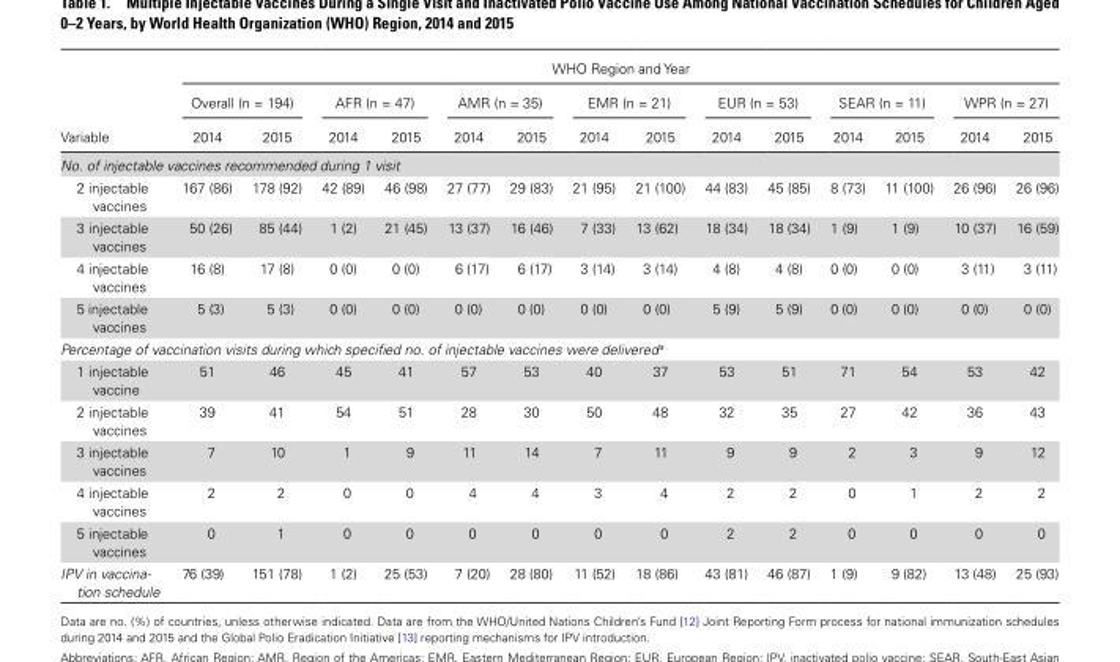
<table><thead><tr><td rowspan="3">Variable</td><td colspan="14">WHO Region and Year</td></tr><tr><td colspan="2">Overall (n = 194)</td><td colspan="2">AFR (n = 47)</td><td colspan="2">AMR (n = 35)</td><td colspan="2">EMR (n = 21)</td><td colspan="2">EUR (n = 53)</td><td colspan="2">SEAR (n = 11)</td><td colspan="2">WPR (n = 27)</td></tr><tr><td>2014</td><td>2015</td><td>2014</td><td>2015</td><td>2014</td><td>2015</td><td>2014</td><td>2015</td><td>2014</td><td>2015</td><td>2014</td><td>2015</td><td>2014</td><td>2015</td></tr></thead><tbody><tr><td colspan="15">No. of injectable vaccines recommended during 1 visit</td></tr><tr><td>2 injectable vaccines</td><td>167 (86)</td><td>178 (92)</td><td>42 (89)</td><td>46 (98)</td><td>27 (77)</td><td>29 (83)</td><td>21 (95)</td><td>21 (100)</td><td>44 (83)</td><td>45 (85)</td><td>8 (73)</td><td>11 (100)</td><td>26 (96)</td><td>26 (96)</td></tr><tr><td>3 injectable vaccines</td><td>50 (26)</td><td>85 (44)</td><td>1 (2)</td><td>21 (45)</td><td>13 (37)</td><td>16 (46)</td><td>7 (33)</td><td>13 (62)</td><td>18 (34)</td><td>18 (34)</td><td>1 (9)</td><td>1 (9)</td><td>10 (37)</td><td>16 (59)</td></tr><tr><td>4 injectable vaccines</td><td>16 (8)</td><td>17 (8)</td><td>0 (0)</td><td>0 (0)</td><td>6 (17)</td><td>6 (17)</td><td>3 (14)</td><td>3 (14)</td><td>4 (8)</td><td>4 (8)</td><td>0 (0)</td><td>0 (0)</td><td>3 (11)</td><td>3 (11)</td></tr><tr><td>5 injectable vaccines</td><td>5 (3)</td><td>5 (3)</td><td>0 (0)</td><td>0 (0)</td><td>0 (0)</td><td>0 (0)</td><td>0 (0)</td><td>0 (0)</td><td>5 (9)</td><td>5 (9)</td><td>0 (0)</td><td>0 (0)</td><td>0 (0)</td><td>0 (0)</td></tr><tr><td colspan="15">Percentage of vaccination visits during which specified no. of injectable vaccines were delivered<sup>a</sup></td></tr><tr><td>1 injectable vaccine</td><td>51</td><td>46</td><td>45</td><td>41</td><td>57</td><td>53</td><td>40</td><td>37</td><td>53</td><td>51</td><td>71</td><td>54</td><td>53</td><td>42</td></tr><tr><td>2 injectable vaccines</td><td>39</td><td>41</td><td>54</td><td>51</td><td>28</td><td>30</td><td>50</td><td>48</td><td>32</td><td>35</td><td>27</td><td>42</td><td>36</td><td>43</td></tr><tr><td>3 injectable vaccines</td><td>7</td><td>10</td><td>1</td><td>9</td><td>11</td><td>14</td><td>7</td><td>11</td><td>9</td><td>9</td><td>2</td><td>3</td><td>9</td><td>12</td></tr><tr><td>4 injectable vaccines</td><td>2</td><td>2</td><td>0</td><td>0</td><td>4</td><td>4</td><td>3</td><td>4</td><td>2</td><td>2</td><td>0</td><td>1</td><td>2</td><td>2</td></tr><tr><td>5 injectable vaccines</td><td>0</td><td>1</td><td>0</td><td>0</td><td>0</td><td>0</td><td>0</td><td>0</td><td>2</td><td>2</td><td>0</td><td>0</td><td>0</td><td>0</td></tr><tr><td>IPV in vaccina- tion schedule</td><td>76 (39)</td><td>151 (78)</td><td>1 (2)</td><td>25 (53)</td><td>7 (20)</td><td>28 (80)</td><td>11 (52)</td><td>18 (86)</td><td>43 (81)</td><td>46 (87)</td><td>1 (9)</td><td>9 (82)</td><td>13 (48)</td><td>25 (93)</td></tr></tbody></table>